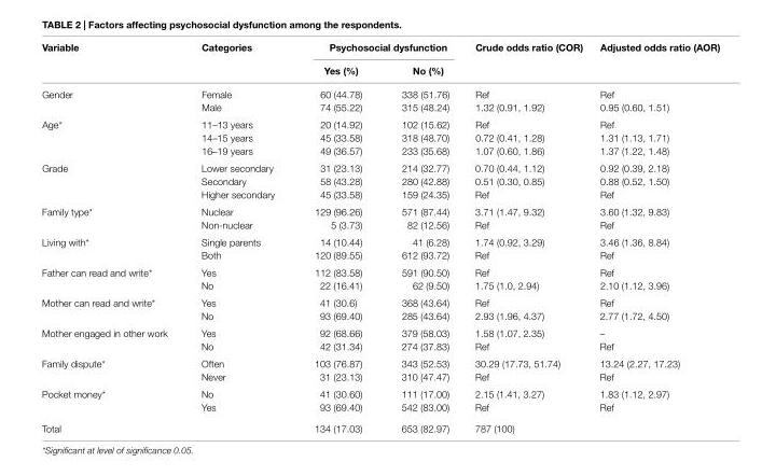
<table><thead><tr><td rowspan="2">Variable</td><td rowspan="2">categories</td><td colspan="2">Psychosocial dysfunction</td><td rowspan="2">crude odds ratio (cOr)</td><td rowspan="2">adjusted odds ratio (aOr)</td></tr><tr><td>Yes (%)</td><td>no (%)</td></tr></thead><tbody><tr><td rowspan="2">Gender</td><td>Female</td><td>60 (44.78)</td><td>338 (51.76)</td><td>Ref</td><td>Ref</td></tr><tr><td>Male</td><td>74 (55.22)</td><td>315 (48.24)</td><td>1.32 (0.91, 1.92)</td><td>0.95 (0.60, 1.51)</td></tr><tr><td rowspan="3">Age*</td><td>11–13 years</td><td>20 (14.92)</td><td>102 (15.62)</td><td>Ref</td><td>Ref</td></tr><tr><td>14–15 years</td><td>45 (33.58)</td><td>318 (48.70)</td><td>0.72 (0.41, 1.28)</td><td>1.31 (1.13, 1.71)</td></tr><tr><td>16–19 years</td><td>49 (36.57)</td><td>233 (35.68)</td><td>1.07 (0.60, 1.86)</td><td>1.37 (1.22, 1.48)</td></tr><tr><td rowspan="3">Grade</td><td>Lower secondary</td><td>31 (23.13)</td><td>214 (32.77)</td><td>0.70 (0.44, 1.12)</td><td>0.92 (0.39, 2.18)</td></tr><tr><td>Secondary</td><td>58 (43.28)</td><td>280 (42.88)</td><td>0.51 (0.30, 0.85)</td><td>0.88 (0.52, 1.50)</td></tr><tr><td>Higher secondary</td><td>45 (33.58)</td><td>159 (24.35)</td><td>Ref</td><td>Ref</td></tr><tr><td rowspan="2">Family type*</td><td>Nuclear</td><td>129 (96.26)</td><td>571 (87.44)</td><td>3.71 (1.47, 9.32)</td><td>3.60 (1.32, 9.83)</td></tr><tr><td>Non-nuclear</td><td>5 (3.73)</td><td>82 (12.56)</td><td>Ref</td><td>Ref</td></tr><tr><td rowspan="2">Living with*</td><td>Single parents</td><td>14 (10.44)</td><td>41 (6.28)</td><td>1.74 (0.92, 3.29)</td><td>3.46 (1.36, 8.84)</td></tr><tr><td>Both</td><td>120 (89.55)</td><td>612 (93.72)</td><td>Ref</td><td>Ref</td></tr><tr><td rowspan="2">Father can read and write*</td><td>Yes</td><td>112 (83.58)</td><td>591 (90.50)</td><td>Ref</td><td>Ref</td></tr><tr><td>No</td><td>22 (16.41)</td><td>62 (9.50)</td><td>1.75 (1.0, 2.94)</td><td>2.10 (1.12, 3.96)</td></tr><tr><td rowspan="2">Mother can read and write*</td><td>Yes</td><td>41 (30.6)</td><td>368 (43.64)</td><td>Ref</td><td>Ref</td></tr><tr><td>No</td><td>93 (69.40)</td><td>285 (43.64)</td><td>2.93 (1.96, 4.37)</td><td>2.77 (1.72, 4.50)</td></tr><tr><td rowspan="2">Mother engaged in other work</td><td>Yes</td><td>92 (68.66)</td><td>379 (58.03)</td><td>1.58 (1.07, 2.35)</td><td>–</td></tr><tr><td>No</td><td>42 (31.34)</td><td>274 (37.83)</td><td>Ref</td><td>Ref</td></tr><tr><td rowspan="2">Family dispute*</td><td>Often</td><td>103 (76.87)</td><td>343 (52.53)</td><td>30.29 (17.73, 51.74)</td><td>13.24 (2.27, 17.23)</td></tr><tr><td>Never</td><td>31 (23.13)</td><td>310 (47.47)</td><td>Ref</td><td>Ref</td></tr><tr><td rowspan="2">Pocket money*</td><td>No</td><td>41 (30.60)</td><td>111 (17.00)</td><td>2.15 (1.41, 3.27)</td><td>1.83 (1.12, 2.97)</td></tr><tr><td>Yes</td><td>93 (69.40)</td><td>542 (83.00)</td><td>Ref</td><td>Ref</td></tr><tr><td colspan="2">Total</td><td>134 (17.03)</td><td>653 (82.97)</td><td colspan="2">787 (100)</td></tr></tbody></table>